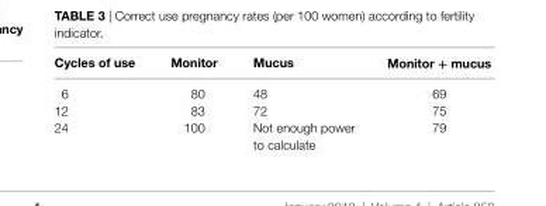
<table><thead><tr><td>cycles of use</td><td>Monitor</td><td>Mucus</td><td>Monitor + mucus</td></tr></thead><tbody><tr><td>6</td><td>80</td><td>48</td><td>69</td></tr><tr><td>12</td><td>83</td><td>72</td><td>75</td></tr><tr><td>24</td><td>100</td><td>Not enough power to calculate</td><td>79</td></tr></tbody></table>